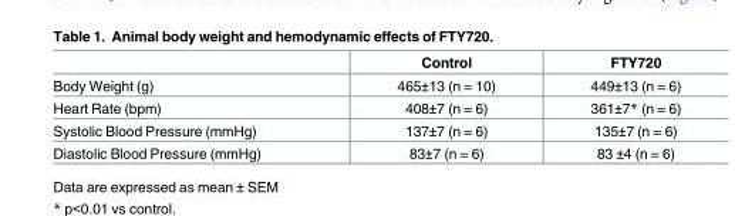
<table><thead><tr><td></td><td>Control</td><td>FTY720</td></tr></thead><tbody><tr><td>Body Weight (g)</td><td>465±13 (n = 10)</td><td>449±13 (n = 6)</td></tr><tr><td>Heart Rate (bpm)</td><td>408±7 (n = 6)</td><td>361±7* (n = 6)</td></tr><tr><td>Systolic Blood Pressure (mmHg)</td><td>137±7 (n = 6)</td><td>135±7 (n = 6)</td></tr><tr><td>Diastolic Blood Pressure (mmHg)</td><td>83±7 (n = 6)</td><td>83 ±4 (n = 6)</td></tr></tbody></table>